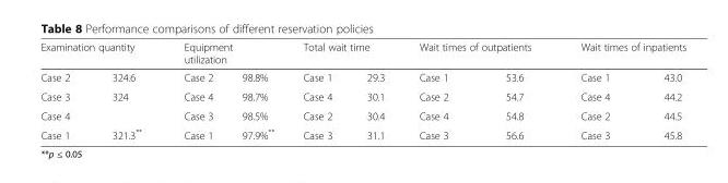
<table><thead><tr><td colspan="2">Examination quantity</td><td colspan="2">Equipment utilization</td><td colspan="2">Total wait time</td><td colspan="2">Wait times of outpatients</td><td colspan="2">Wait times of inpatients</td></tr><tr><td>Case 2</td><td>324.6</td><td>Case 2</td><td>98.8%</td><td>Case 1</td><td>29.3</td><td>Case 1</td><td>53.6</td><td>Case 1</td><td>43.0</td></tr></thead><tbody><tr><td>Case 3</td><td rowspan="2">324</td><td>Case 4</td><td>98.7%</td><td>Case 4</td><td>30.1</td><td>Case 2</td><td>54.7</td><td>Case 4</td><td>44.2</td></tr><tr><td>Case 4</td><td>Case 3</td><td>98.5%</td><td>Case 2</td><td>30.4</td><td>Case 4</td><td>54.8</td><td>Case 2</td><td>44.5</td></tr><tr><td>Case 1</td><td>321.3**</td><td>Case 1</td><td>97.9%**</td><td>Case 3</td><td>31.1</td><td>Case 3</td><td>56.6</td><td>Case 3</td><td>45.8</td></tr></tbody></table>